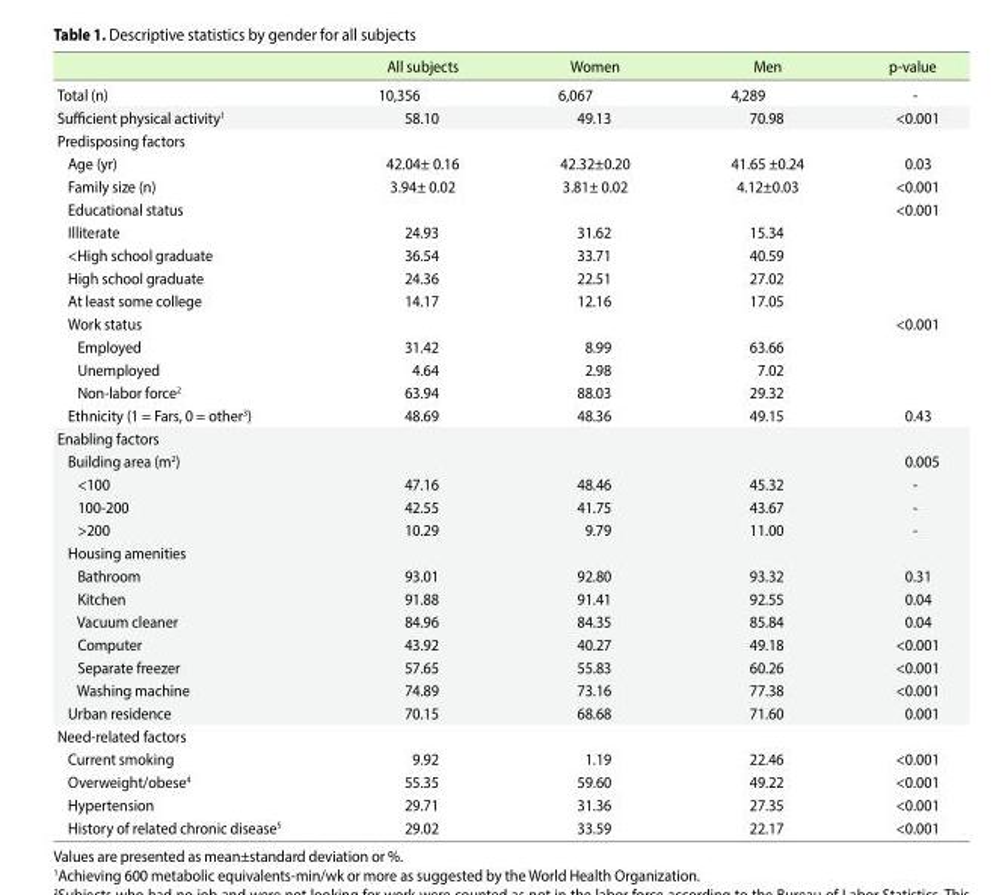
<table><thead><tr><td></td><td>All subjects</td><td>Women</td><td>Men</td><td>p-value</td></tr></thead><tbody><tr><td>Total (n)</td><td>10,356</td><td>6,067</td><td>4,289</td><td>-</td></tr><tr><td>Sufficient physical activity<sup>1</sup></td><td>58.10</td><td>49.13</td><td>70.98</td><td>&lt;0.001</td></tr><tr><td colspan="5">Predisposing factors</td></tr><tr><td>Age (yr)</td><td>42.04± 0.16</td><td>42.32±0.20</td><td>41.65 ±0.24</td><td>0.03</td></tr><tr><td>Family size (n)</td><td>3.94± 0.02</td><td>3.81± 0.02</td><td>4.12±0.03</td><td>&lt;0.001</td></tr><tr><td>Educational status</td><td></td><td></td><td></td><td>&lt;0.001</td></tr><tr><td>Illiterate</td><td>24.93</td><td>31.62</td><td>15.34</td><td></td></tr><tr><td>&lt;High school graduate</td><td>36.54</td><td>33.71</td><td>40.59</td><td></td></tr><tr><td>High school graduate</td><td>24.36</td><td>22.51</td><td>27.02</td><td></td></tr><tr><td>At least some college</td><td>14.17</td><td>12.16</td><td>17.05</td><td></td></tr><tr><td>Work status</td><td></td><td></td><td></td><td>&lt;0.001</td></tr><tr><td>Employed</td><td>31.42</td><td>8.99</td><td>63.66</td><td></td></tr><tr><td>Unemployed</td><td>4.64</td><td>2.98</td><td>7.02</td><td></td></tr><tr><td>Non-labor force<sup>2</sup></td><td>63.94</td><td>88.03</td><td>29.32</td><td></td></tr><tr><td>Ethnicity (1 = Fars, 0 = other<sup>3</sup>)</td><td>48.69</td><td>48.36</td><td>49.15</td><td>0.43</td></tr><tr><td colspan="5">Enabling factors</td></tr><tr><td>Building area (m<sup>2</sup>)</td><td></td><td></td><td></td><td>0.005</td></tr><tr><td>&lt;100</td><td>47.16</td><td>48.46</td><td>45.32</td><td>-</td></tr><tr><td>100-200</td><td>42.55</td><td>41.75</td><td>43.67</td><td>-</td></tr><tr><td>&gt;200</td><td>10.29</td><td>9.79</td><td>11.00</td><td>-</td></tr><tr><td colspan="5">Housing amenities</td></tr><tr><td>Bathroom</td><td>93.01</td><td>92.80</td><td>93.32</td><td>0.31</td></tr><tr><td>Kitchen</td><td>91.88</td><td>91.41</td><td>92.55</td><td>0.04</td></tr><tr><td>Vacuum cleaner</td><td>84.96</td><td>84.35</td><td>85.84</td><td>0.04</td></tr><tr><td>Computer</td><td>43.92</td><td>40.27</td><td>49.18</td><td>&lt;0.001</td></tr><tr><td>Separate freezer</td><td>57.65</td><td>55.83</td><td>60.26</td><td>&lt;0.001</td></tr><tr><td>Washing machine</td><td>74.89</td><td>73.16</td><td>77.38</td><td>&lt;0.001</td></tr><tr><td>Urban residence</td><td>70.15</td><td>68.68</td><td>71.60</td><td>0.001</td></tr><tr><td colspan="5">Need-related factors</td></tr><tr><td>Current smoking</td><td>9.92</td><td>1.19</td><td>22.46</td><td>&lt;0.001</td></tr><tr><td>Overweight/obese<sup>4</sup></td><td>55.35</td><td>59.60</td><td>49.22</td><td>&lt;0.001</td></tr><tr><td>Hypertension</td><td>29.71</td><td>31.36</td><td>27.35</td><td>&lt;0.001</td></tr><tr><td>History of related chronic disease<sup>5</sup></td><td>29.02</td><td>33.59</td><td>22.17</td><td>&lt;0.001</td></tr></tbody></table>